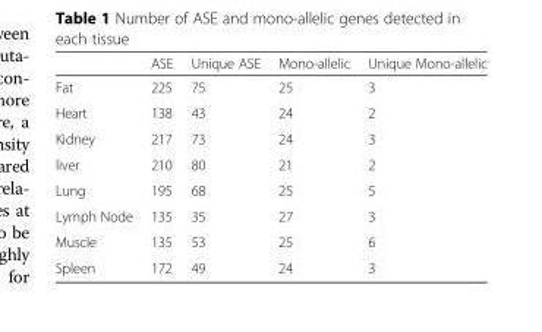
<table><thead><tr><td></td><td>ASE</td><td>Unique ASE</td><td>Mono-allelic</td><td>Unique Mono-allelic</td></tr></thead><tbody><tr><td>Fat</td><td>225</td><td>75</td><td>25</td><td>3</td></tr><tr><td>Heart</td><td>138</td><td>43</td><td>24</td><td>2</td></tr><tr><td>Kidney</td><td>217</td><td>73</td><td>24</td><td>3</td></tr><tr><td>liver</td><td>210</td><td>80</td><td>21</td><td>2</td></tr><tr><td>Lung</td><td>195</td><td>68</td><td>25</td><td>5</td></tr><tr><td>Lymph Node</td><td>135</td><td>35</td><td>27</td><td>3</td></tr><tr><td>Muscle</td><td>135</td><td>53</td><td>25</td><td>6</td></tr><tr><td>Spleen</td><td>172</td><td>49</td><td>24</td><td>3</td></tr></tbody></table>